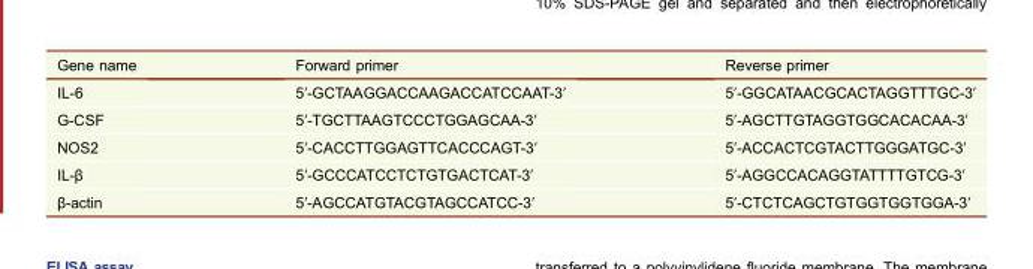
<table><thead><tr><td>Gene name</td><td>Forward primer</td><td>Reverse primer</td></tr></thead><tbody><tr><td>IL-6</td><td>5′-GCTAAGGACCAAGACCATCCAAT-3′</td><td>5′-GGCATAACGCACTAGGTTTGC-3′</td></tr><tr><td>G-CSF</td><td>5′-TGCTTAAGTCCCTGGAGCAA-3′</td><td>5′-AGCTTGTAGGTGGCACACAA-3′</td></tr><tr><td>NOS2</td><td>5′-CACCTTGGAGTTCACCCAGT-3′</td><td>5′-ACCACTCGTACTTGGGATGC-3′</td></tr><tr><td>IL-β</td><td>5′-GCCCATCCTCTGTGACTCAT-3′</td><td>5′-AGGCCACAGGTATTTTGTCG-3′</td></tr><tr><td>β-actin</td><td>5′-AGCCATGTACGTAGCCATCC-3′</td><td>5′-CTCTCAGCTGTGGTGGTGGA-3′</td></tr></tbody></table>